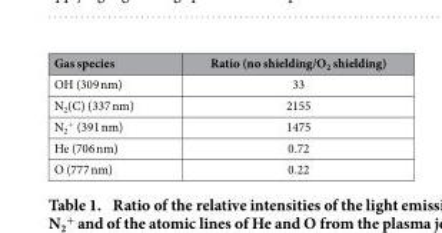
<table><thead><tr><td>Gas species</td><td>Ratio (no shielding/O<sub>2</sub> shielding)</td></tr></thead><tbody><tr><td>OH (309 nm)</td><td>33</td></tr><tr><td>N<sub>2</sub>(C) (337 nm)</td><td>2155</td></tr><tr><td>N<sub>2</sub> <sup>+</sup> (391 nm)</td><td>1475</td></tr><tr><td>He (706 nm)</td><td>0.72</td></tr><tr><td>O (777 nm)</td><td>0.22</td></tr></tbody></table>